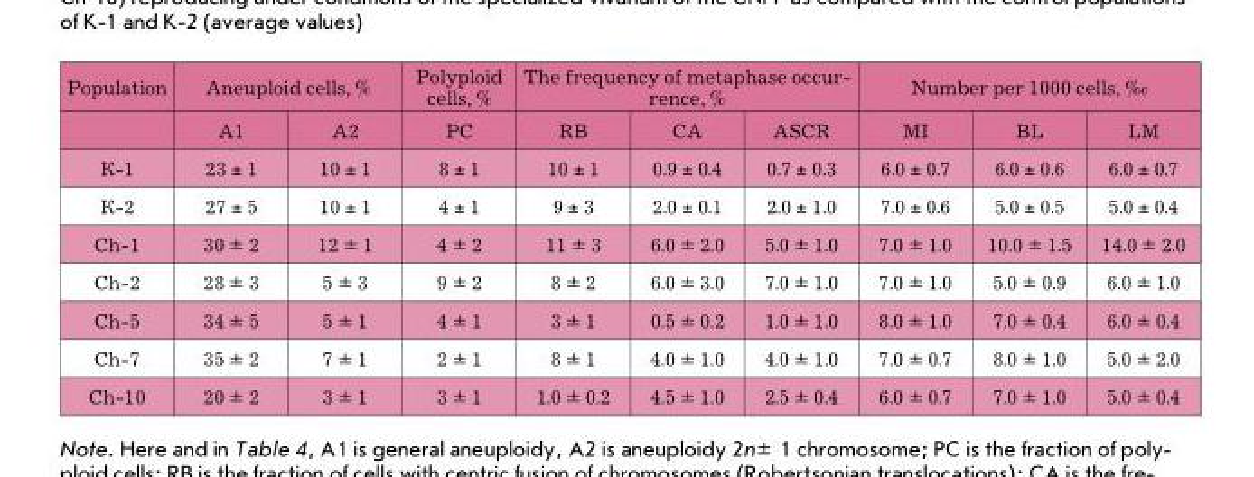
<table><thead><tr><td rowspan="2">Population</td><td colspan="2">Aneuploid cells, %</td><td rowspan="2">Polyploid cells, % Pc</td><td colspan="3">the frequency of metaphase occur- rence, %</td><td colspan="3">number per 1000 cells, ‰</td></tr><tr><td>А1</td><td>А2</td><td>rB</td><td>cА</td><td>AScr</td><td>MI</td><td>BL</td><td>LM</td></tr></thead><tbody><tr><td>К-1</td><td>23 ± 1</td><td>10 ± 1</td><td>8 ± 1</td><td>10 ± 1</td><td>0.9 ± 0.4</td><td>0.7 ± 0.3</td><td>6.0 ± 0.7</td><td>6.0 ± 0.6</td><td>6.0 ± 0.7</td></tr><tr><td>К-2</td><td>27 ± 5</td><td>10 ± 1</td><td>4 ± 1</td><td>9 ± 3</td><td>2.0 ± 0.1</td><td>2.0 ± 1.0</td><td>7.0 ± 0.6</td><td>5.0 ± 0.5</td><td>5.0 ± 0.4</td></tr><tr><td>ch-1</td><td>30 ± 2</td><td>12 ± 1</td><td>4 ± 2</td><td>11 ± 3</td><td>6.0 ± 2.0</td><td>5.0 ± 1.0</td><td>7.0 ± 1.0</td><td>10.0 ± 1.5</td><td>14.0 ± 2.0</td></tr><tr><td>ch-2</td><td>28 ± 3</td><td>5 ± 3</td><td>9 ± 2</td><td>8 ± 2</td><td>6.0 ± 3.0</td><td>7.0 ± 1.0</td><td>7.0 ± 1.0</td><td>5.0 ± 0.9</td><td>6.0 ± 1.0</td></tr><tr><td>ch-5</td><td>34 ± 5</td><td>5 ± 1</td><td>4 ± 1</td><td>3 ± 1</td><td>0.5 ± 0.2</td><td>1.0 ± 1.0</td><td>8.0 ± 1.0</td><td>7.0 ± 0.4</td><td>6.0 ± 0.4</td></tr><tr><td>ch-7</td><td>35 ± 2</td><td>7 ± 1</td><td>2 ± 1</td><td>8 ± 1</td><td>4.0 ± 1.0</td><td>4.0 ± 1.0</td><td>7.0 ± 0.7</td><td>8.0 ± 1.0</td><td>5.0 ± 2.0</td></tr><tr><td>ch-10</td><td>20 ± 2</td><td>3 ± 1</td><td>3 ± 1</td><td>1.0 ± 0.2</td><td>4.5 ± 1.0</td><td>2.5 ± 0.4</td><td>6.0 ± 0.7</td><td>7.0 ± 1.0</td><td>5.0 ± 0.4</td></tr></tbody></table>